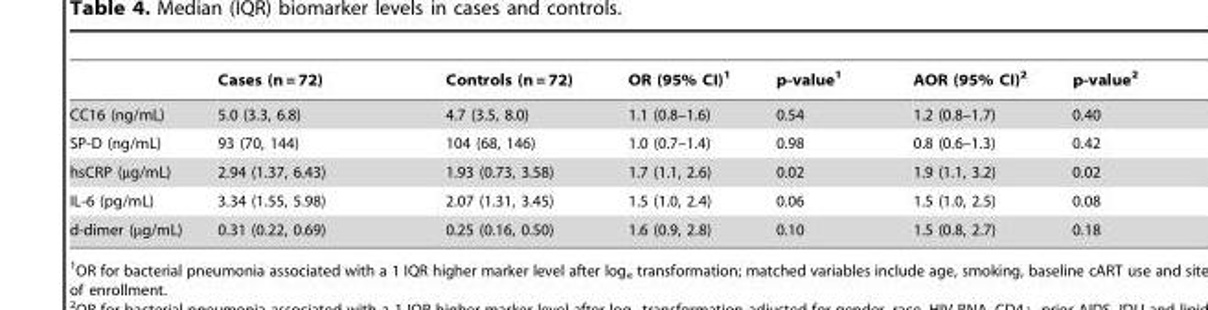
<table><thead><tr><td></td><td>Cases (n = 72)</td><td>Controls (n = 72)</td><td>OR (95% CI)<sup>1</sup></td><td>p-value<sup>1</sup></td><td>AOR (95% CI)<sup>2</sup></td><td>p-value<sup>2</sup></td></tr></thead><tbody><tr><td>CC16 (ng/mL)</td><td>5.0 (3.3, 6.8)</td><td>4.7 (3.5, 8.0)</td><td>1.1 (0.8–1.6)</td><td>0.54</td><td>1.2 (0.8–1.7)</td><td>0.40</td></tr><tr><td>SP-D (ng/mL)</td><td>93 (70, 144)</td><td>104 (68, 146)</td><td>1.0 (0.7–1.4)</td><td>0.98</td><td>0.8 (0.6–1.3)</td><td>0.42</td></tr><tr><td>hsCRP (µg/mL)</td><td>2.94 (1.37, 6.43)</td><td>1.93 (0.73, 3.58)</td><td>1.7 (1.1, 2.6)</td><td>0.02</td><td>1.9 (1.1, 3.2)</td><td>0.02</td></tr><tr><td>IL-6 (pg/mL)</td><td>3.34 (1.55, 5.98)</td><td>2.07 (1.31, 3.45)</td><td>1.5 (1.0, 2.4)</td><td>0.06</td><td>1.5 (1.0, 2.5)</td><td>0.08</td></tr><tr><td>d-dimer (µg/mL)</td><td>0.31 (0.22, 0.69)</td><td>0.25 (0.16, 0.50)</td><td>1.6 (0.9, 2.8)</td><td>0.10</td><td>1.5 (0.8, 2.7)</td><td>0.18</td></tr></tbody></table>